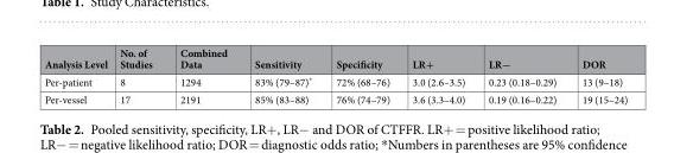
<table><thead><tr><td>Analysis Level</td><td>No. of Studies</td><td>Combined Data</td><td>Sensitivity</td><td>Specificity</td><td>LR+</td><td>LR−</td><td>DOR</td></tr></thead><tbody><tr><td>Per-patient</td><td>8</td><td>1294</td><td>83% (79–87)*</td><td>72% (68–76)</td><td>3.0 (2.6–3.5)</td><td>0.23 (0.18–0.29)</td><td>13 (9–18)</td></tr><tr><td>Per-vessel</td><td>17</td><td>2191</td><td>85% (83–88)</td><td>76% (74–79)</td><td>3.6 (3.3–4.0)</td><td>0.19 (0.16–0.22)</td><td>19 (15–24)</td></tr></tbody></table>